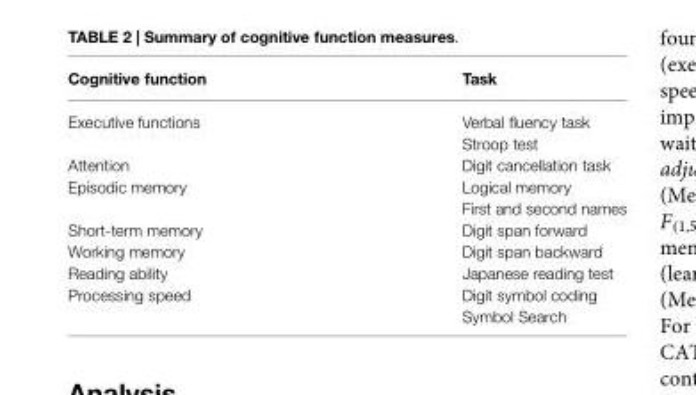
<table><thead><tr><td>Cognitive function</td><td>Task</td></tr></thead><tbody><tr><td rowspan="2">Executive functions</td><td>Verbal fluency task</td></tr><tr><td>Stroop test</td></tr><tr><td>Attention</td><td>Digit cancellation task</td></tr><tr><td rowspan="2">Episodic memory</td><td>Logical memory</td></tr><tr><td>First and second names</td></tr><tr><td>Short-term memory</td><td>Digit span forward</td></tr><tr><td>Working memory</td><td>Digit span backward</td></tr><tr><td>Reading ability</td><td>Japanese reading test</td></tr><tr><td rowspan="2">Processing speed</td><td>Digit symbol coding</td></tr><tr><td>Symbol Search</td></tr></tbody></table>